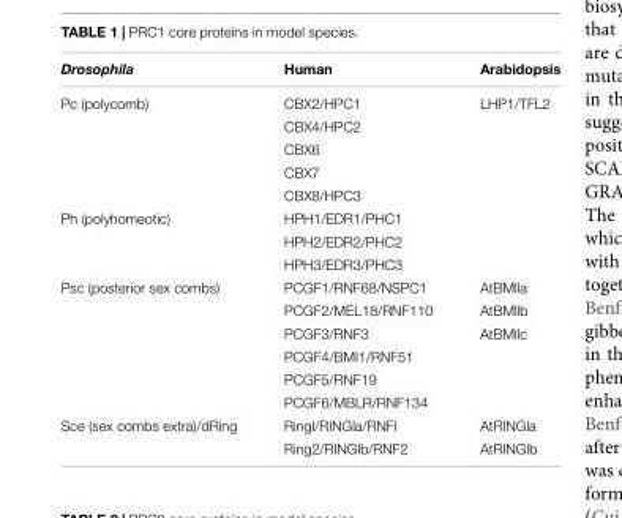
<table><thead><tr><td>Drosophila</td><td>Human</td><td>Arabidopsis</td></tr></thead><tbody><tr><td rowspan="5">Pc (polycomb)</td><td>CBX2/HPC1</td><td>LHP1/TFL2</td></tr><tr><td>CBX4/HPC2</td><td></td></tr><tr><td>CBX6</td><td></td></tr><tr><td>CBX7</td><td></td></tr><tr><td>CBX8/HPC3</td><td></td></tr><tr><td rowspan="3">Ph (polyhomeotic)</td><td>HPH1/EDR1/PHC1</td><td></td></tr><tr><td>HPH2/EDR2/PHC2</td><td></td></tr><tr><td>HPH3/EDR3/PHC3</td><td></td></tr><tr><td rowspan="6">Psc (posterior sex combs)</td><td>PCGF1/RNF68/NSPC1</td><td>AtBMlla</td></tr><tr><td>PCGF2/MEL18/RNF110</td><td>AtBMllb</td></tr><tr><td>PCGF3/RNF3</td><td>AtBMllc</td></tr><tr><td>PCGF4/BMI1/RNF51</td><td></td></tr><tr><td>PCGF5/RNF19</td><td></td></tr><tr><td>PCGF6/MBLR/RNF134</td><td></td></tr><tr><td rowspan="2">Sce (sex combs extra)/dRing</td><td>Ringl/RINGla/RNFl</td><td>AtRINGla</td></tr><tr><td>Ring2/RINGlb/RNF2</td><td>AtRINGlb</td></tr></tbody></table>